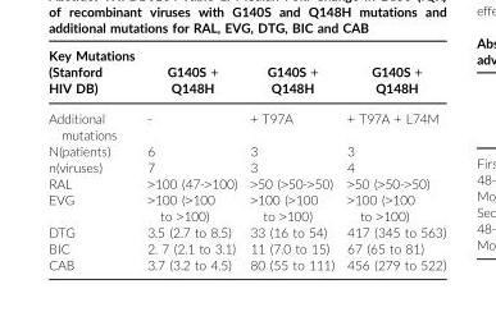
<table><thead><tr><td>Key Mutations (Stanford HIV DB)</td><td>G140S + Q148H</td><td>G140S + Q148H</td><td>G140S + Q148H</td></tr></thead><tbody><tr><td>Additional mutations</td><td>-</td><td>+ T97A</td><td>+ T97A + L74M</td></tr><tr><td>N(patients)</td><td>6</td><td>3</td><td>3</td></tr><tr><td>n(viruses)</td><td>7</td><td>3</td><td>4</td></tr><tr><td>RAL</td><td>&gt;100 (47-&gt;100)</td><td>&gt;50 (&gt;50-&gt;50)</td><td>&gt;50 (&gt;50-&gt;50)</td></tr><tr><td>EVG</td><td>&gt;100 (&gt;100 to &gt;100)</td><td>&gt;100 (&gt;100 to &gt;100)</td><td>&gt;100 (&gt;100 to &gt;100)</td></tr><tr><td>DTG</td><td>3.5 (2.7 to 8.5)</td><td>33 (16 to 54)</td><td>417 (345 to 563)</td></tr><tr><td>BIC</td><td>2. 7 (2.1 to 3.1)</td><td>11 (7.0 to 15)</td><td>67 (65 to 81)</td></tr><tr><td>CAB</td><td>3.7 (3.2 to 4.5)</td><td>80 (55 to 111)</td><td>456 (279 to 522)</td></tr></tbody></table>